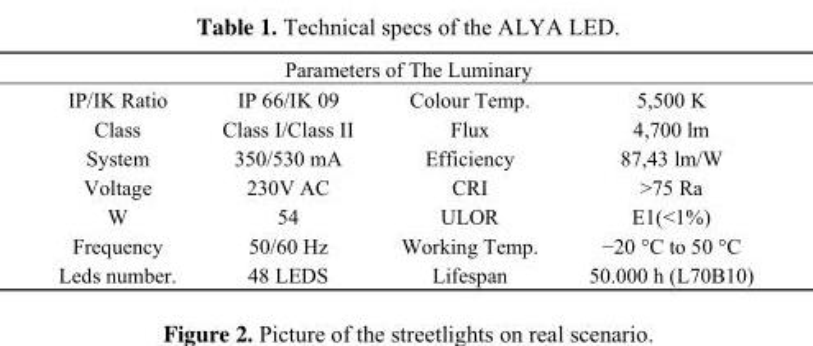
<table><thead><tr><td colspan="4">Parameters of The Luminary</td></tr><tr><td>IP/IK Ratio</td><td>IP 66/IK 09</td><td>Colour Temp.</td><td>5,500 K</td></tr></thead><tbody><tr><td>Class</td><td>Class I/Class II</td><td>Flux</td><td>4,700 lm</td></tr><tr><td>System</td><td>350/530 mA</td><td>Efficiency</td><td>87,43 lm/W</td></tr><tr><td>Voltage</td><td>230V AC</td><td>CRI</td><td>&gt;75 Ra</td></tr><tr><td>W</td><td>54</td><td>ULOR</td><td>E1(&lt;1%)</td></tr><tr><td>Frequency</td><td>50/60 Hz</td><td>Working Temp.</td><td>−20 °C to 50 °C</td></tr><tr><td>Leds number.</td><td>48 LEDS</td><td>Lifespan</td><td>50.000 h (L70B10)</td></tr></tbody></table>